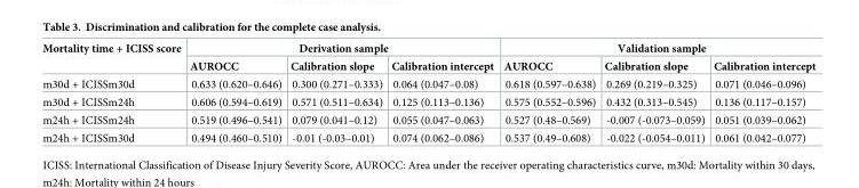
<table><thead><tr><td rowspan="2">Mortality time + ICISS score</td><td colspan="3">Derivation sample</td><td colspan="3">Validation sample</td></tr><tr><td>AUROCC</td><td>Calibration slope</td><td>Calibration intercept</td><td>AUROCC</td><td>Calibration slope</td><td>Calibration intercept</td></tr></thead><tbody><tr><td>m30d + ICISSm30d</td><td>0.633 (0.620–0.646)</td><td>0.300 (0.271–0.333)</td><td>0.064 (0.047–0.08)</td><td>0.618 (0.597–0.638)</td><td>0.269 (0.219–0.325)</td><td>0.071 (0.046–0.096)</td></tr><tr><td>m30d + ICISSm24h</td><td>0.606 (0.594–0.619)</td><td>0.571 (0.511–0.634)</td><td>0.125 (0.113–0.136)</td><td>0.575 (0.552–0.596)</td><td>0.432 (0.313–0.545)</td><td>0.136 (0.117–0.157)</td></tr><tr><td>m24h + ICISSm24h</td><td>0.519 (0.496–0.541)</td><td>0.079 (0.041–0.12)</td><td>0.055 (0.047–0.063)</td><td>0.527 (0.48–0.569)</td><td>-0.007 (-0.073–0.059)</td><td>0.051 (0.039–0.062)</td></tr><tr><td>m24h + ICISSm30d</td><td>0.494 (0.460–0.510)</td><td>-0.01 (-0.03–0.01)</td><td>0.074 (0.062–0.086)</td><td>0.537 (0.49–0.608)</td><td>-0.022 (-0.054–0.011)</td><td>0.061 (0.042–0.077)</td></tr></tbody></table>